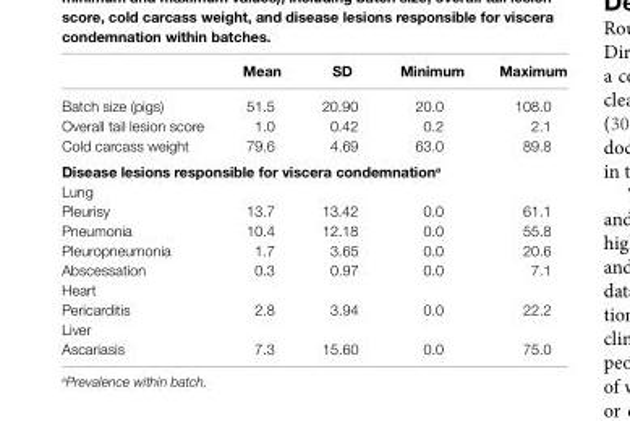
<table><thead><tr><td></td><td>Mean</td><td>sD</td><td>Minimum</td><td>Maximum</td></tr></thead><tbody><tr><td>Batch size (pigs)</td><td>51.5</td><td>20.90</td><td>20.0</td><td>108.0</td></tr><tr><td>Overall tail lesion score</td><td>1.0</td><td>0.42</td><td>0.2</td><td>2.1</td></tr><tr><td>Cold carcass weight</td><td>79.6</td><td>4.69</td><td>63.0</td><td>89.8</td></tr><tr><td colspan="5">Disease lesions responsible for viscera condemnation<sup>a</sup></td></tr><tr><td colspan="5">Lung</td></tr><tr><td>Pleurisy</td><td>13.7</td><td>13.42</td><td>0.0</td><td>61.1</td></tr><tr><td>Pneumonia</td><td>10.4</td><td>12.18</td><td>0.0</td><td>55.8</td></tr><tr><td>Pleuropneumonia</td><td>1.7</td><td>3.65</td><td>0.0</td><td>20.6</td></tr><tr><td>Abscessation</td><td>0.3</td><td>0.97</td><td>0.0</td><td>7.1</td></tr><tr><td colspan="5">Heart</td></tr><tr><td>Pericarditis</td><td>2.8</td><td>3.94</td><td>0.0</td><td>22.2</td></tr><tr><td colspan="5">Liver</td></tr><tr><td>Ascariasis</td><td>7.3</td><td>15.60</td><td>0.0</td><td>75.0</td></tr></tbody></table>